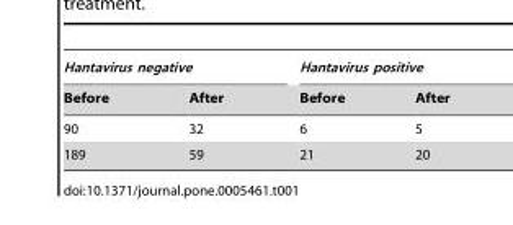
<table><thead><tr><td colspan="2">Hantavirus negative</td><td colspan="2">Hantavirus positive</td></tr><tr><td>Before</td><td>After</td><td>Before</td><td>After</td></tr></thead><tbody><tr><td>90</td><td>32</td><td>6</td><td>5</td></tr><tr><td>189</td><td>59</td><td>21</td><td>20</td></tr></tbody></table>